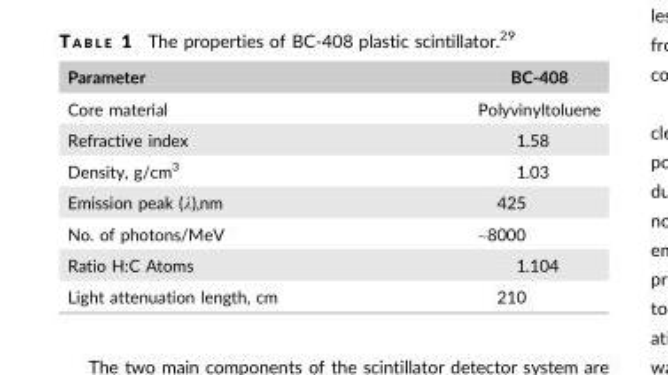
<table><thead><tr><td>Parameter</td><td>BC-408</td></tr></thead><tbody><tr><td>Core material</td><td>Polyvinyltoluene</td></tr><tr><td>Refractive index</td><td>1.58</td></tr><tr><td>Density, g/cm<sup>3</sup></td><td>1.03</td></tr><tr><td>Emission peak (λ),nm</td><td>425</td></tr><tr><td>No. of photons/MeV</td><td>~8000</td></tr><tr><td>Ratio H:C Atoms</td><td>1.104</td></tr><tr><td>Light attenuation length, cm</td><td>210</td></tr></tbody></table>